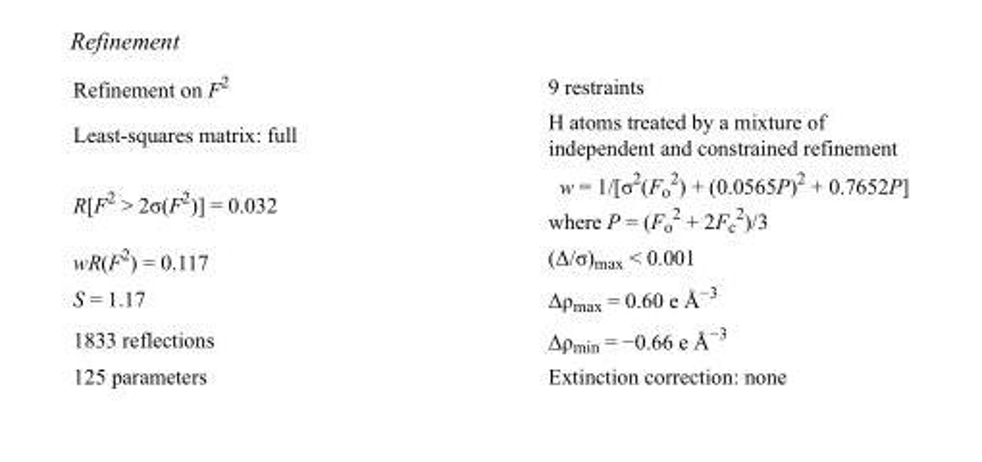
<table><tbody><tr><td>Refinement on F<sup>2</sup></td><td>9 restraints</td></tr><tr><td>Least-squares matrix: full</td><td>H atoms treated by a mixture of independent and constrained refinement</td></tr><tr><td>R[F<sup>2</sup> &gt; 2σ(F<sup>2</sup>)] = 0.032</td><td>w = 1/[σ<sup>2</sup>(F<sub>o</sub> <sup>2</sup>) + (0.0565P)<sup>2</sup> + 0.7652P] where P = (F<sub>o</sub> <sup>2</sup> + 2F<sub>c</sub> <sup>2</sup>)/3</td></tr><tr><td>wR(F<sup>2</sup>) = 0.117</td><td>(Δ/σ)<sub>max</sub> &lt; 0.001</td></tr><tr><td>S = 1.17</td><td>Δρ<sub>max</sub> = 0.60 e Å<sup>−3</sup></td></tr><tr><td>1833 reflections</td><td>Δρ<sub>min</sub> = −0.66 e Å<sup>−3</sup></td></tr><tr><td>125 parameters</td><td>Extinction correction: none</td></tr></tbody></table>